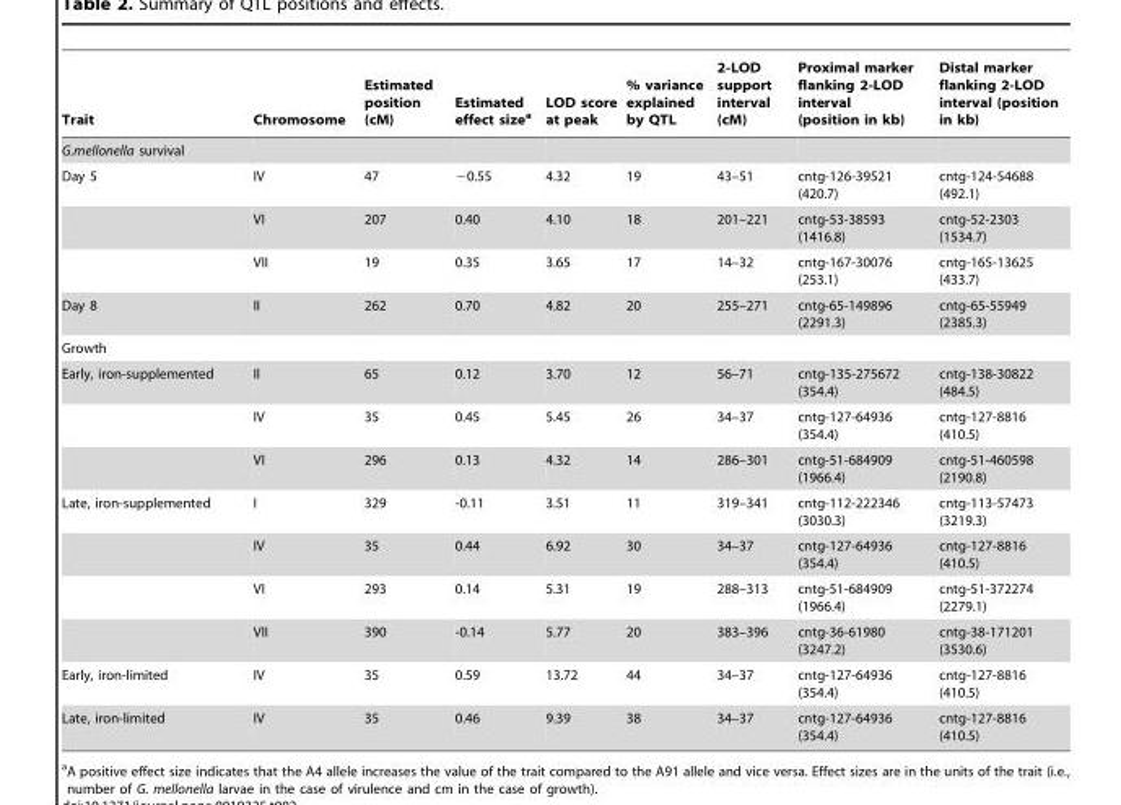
<table><thead><tr><td>Trait</td><td>Chromosome</td><td>Estimated position (cM)</td><td>Estimated effect size<sup>a</sup></td><td>LOD score at peak</td><td>% variance explained by QTL</td><td>2-LOD support interval (cM)</td><td>Proximal marker flanking 2-LOD interval (position in kb)</td><td>Distal marker flanking 2-LOD interval (position in kb)</td></tr></thead><tbody><tr><td colspan="9">G.mellonella survival</td></tr><tr><td rowspan="3">Day 5</td><td>IV</td><td>47</td><td>−0.55</td><td>4.32</td><td>19</td><td>43–51</td><td>cntg-126-39521 (420.7)</td><td>cntg-124-54688 (492.1)</td></tr><tr><td>VI</td><td>207</td><td>0.40</td><td>4.10</td><td>18</td><td>201–221</td><td>cntg-53-38593 (1416.8)</td><td>cntg-52-2303 (1534.7)</td></tr><tr><td>VII</td><td>19</td><td>0.35</td><td>3.65</td><td>17</td><td>14–32</td><td>cntg-167-30076 (253.1)</td><td>cntg-165-13625 (433.7)</td></tr><tr><td>Day 8</td><td>II</td><td>262</td><td>0.70</td><td>4.82</td><td>20</td><td>255–271</td><td>cntg-65-149896 (2291.3)</td><td>cntg-65-55949 (2385.3)</td></tr><tr><td colspan="9">Growth</td></tr><tr><td rowspan="3">Early, iron-supplemented</td><td>II</td><td>65</td><td>0.12</td><td>3.70</td><td>12</td><td>56–71</td><td>cntg-135-275672 (354.4)</td><td>cntg-138-30822 (484.5)</td></tr><tr><td>IV</td><td>35</td><td>0.45</td><td>5.45</td><td>26</td><td>34–37</td><td>cntg-127-64936 (354.4)</td><td>cntg-127-8816 (410.5)</td></tr><tr><td>VI</td><td>296</td><td>0.13</td><td>4.32</td><td>14</td><td>286–301</td><td>cntg-51-684909 (1966.4)</td><td>cntg-51-460598 (2190.8)</td></tr><tr><td rowspan="4">Late, iron-supplemented</td><td>I</td><td>329</td><td>-0.11</td><td>3.51</td><td>11</td><td>319–341</td><td>cntg-112-222346 (3030.3)</td><td>cntg-113-57473 (3219.3)</td></tr><tr><td>IV</td><td>35</td><td>0.44</td><td>6.92</td><td>30</td><td>34–37</td><td>cntg-127-64936 (354.4)</td><td>cntg-127-8816 (410.5)</td></tr><tr><td>VI</td><td>293</td><td>0.14</td><td>5.31</td><td>19</td><td>288–313</td><td>cntg-51-684909 (1966.4)</td><td>cntg-51-372274 (2279.1)</td></tr><tr><td>VII</td><td>390</td><td>-0.14</td><td>5.77</td><td>20</td><td>383–396</td><td>cntg-36-61980 (3247.2)</td><td>cntg-38-171201 (3530.6)</td></tr><tr><td>Early, iron-limited</td><td>IV</td><td>35</td><td>0.59</td><td>13.72</td><td>44</td><td>34–37</td><td>cntg-127-64936 (354.4)</td><td>cntg-127-8816 (410.5)</td></tr><tr><td>Late, iron-limited</td><td>IV</td><td>35</td><td>0.46</td><td>9.39</td><td>38</td><td>34–37</td><td>cntg-127-64936 (354.4)</td><td>cntg-127-8816 (410.5)</td></tr></tbody></table>